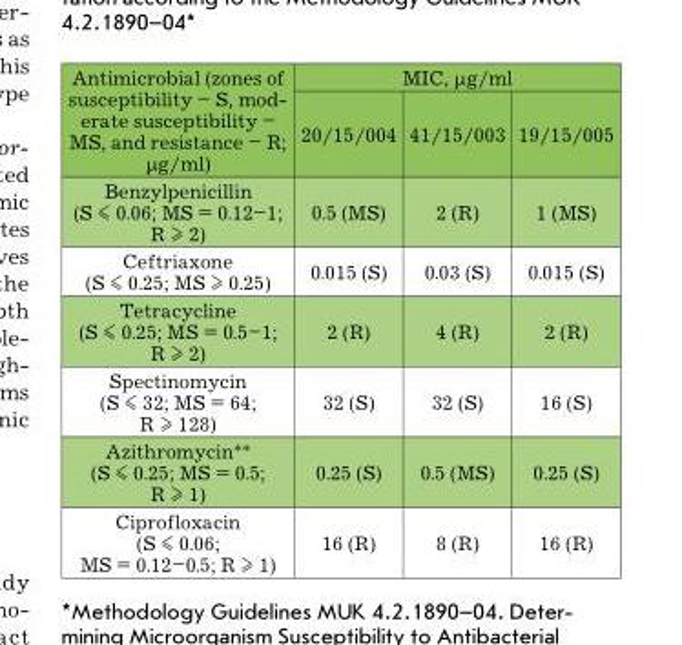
<table><thead><tr><td rowspan="2">Antimicrobial (zones of susceptibility – S, mod- erate susceptibility – MS, and resistance – R; µg/ml)</td><td colspan="3">MIC, µg/ml</td></tr><tr><td>20/15/004</td><td>41/15/003</td><td>19/15/005</td></tr></thead><tbody><tr><td>Benzylpenicillin (S ≤ 0.06; MS = 0.12–1; R ≥ 2)</td><td>0.5 (MS)</td><td>2 (R)</td><td>1 (MS)</td></tr><tr><td>Ceftriaxone (S ≤ 0.25; MS ≥ 0.25)</td><td>0.015 (S)</td><td>0.03 (S)</td><td>0.015 (S)</td></tr><tr><td>Tetracycline (S ≤ 0.25; MS = 0.5–1; R ≥ 2)</td><td>2 (R)</td><td>4 (R)</td><td>2 (R)</td></tr><tr><td>Spectinomycin (S ≤ 32; MS = 64; R ≥ 128)</td><td>32 (S)</td><td>32 (S)</td><td>16 (S)</td></tr><tr><td>Azithromycin** (S ≤ 0.25; MS = 0.5; R ≥ 1)</td><td>0.25 (S)</td><td>0.5 (MS)</td><td>0.25 (S)</td></tr><tr><td>Ciprofloxacin (S ≤ 0.06; MS = 0.12–0.5; R ≥ 1)</td><td>16 (R)</td><td>8 (R)</td><td>16 (R)</td></tr></tbody></table>